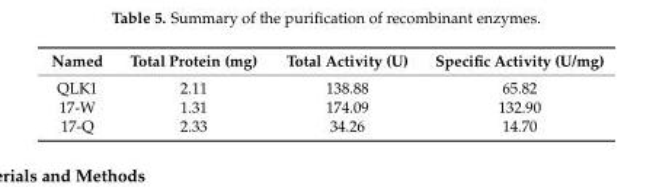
<table><thead><tr><td>Named</td><td>Total Protein (mg)</td><td>Total Activity (U)</td><td>Specific Activity (U/mg)</td></tr></thead><tbody><tr><td>QLK1</td><td>2.11</td><td>138.88</td><td>65.82</td></tr><tr><td>17-W</td><td>1.31</td><td>174.09</td><td>132.90</td></tr><tr><td>17-Q</td><td>2.33</td><td>34.26</td><td>14.70</td></tr></tbody></table>